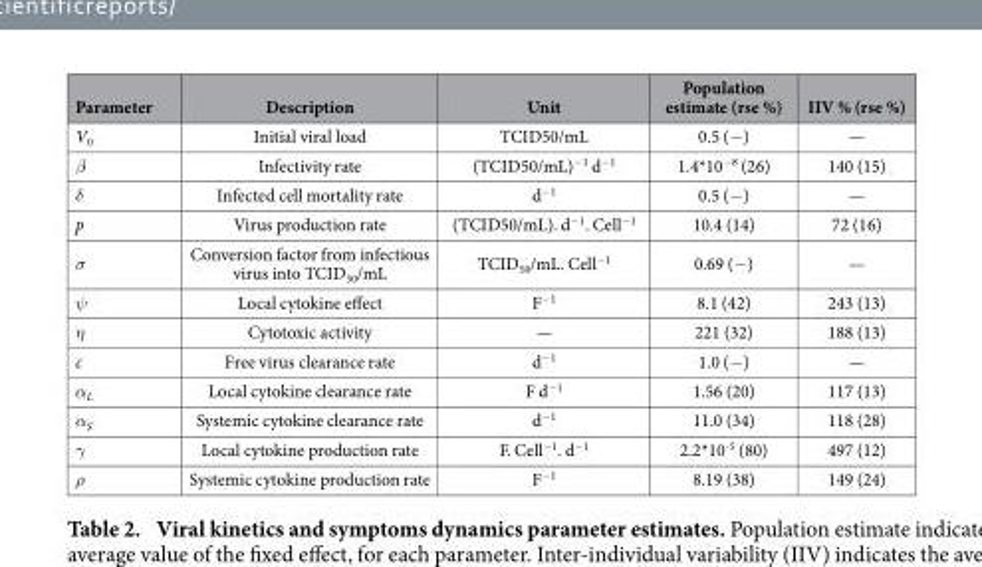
<table><thead><tr><td>Parameter</td><td>Description</td><td>Unit</td><td>Population estimate (rse %)</td><td>IIV % (rse %)</td></tr></thead><tbody><tr><td>V<sub>0</sub></td><td>Initial viral load</td><td>TCID50/mL</td><td>0.5 (− )</td><td>—</td></tr><tr><td>β</td><td>Infectivity rate</td><td>(TCID50/mL)<sup>−1</sup> d<sup>−1</sup></td><td>1.4*10<sup>−8</sup> (26)</td><td>140 (15)</td></tr><tr><td>δ</td><td>Infected cell mortality rate</td><td>d<sup>−1</sup></td><td>0.5 (− )</td><td>—</td></tr><tr><td>p</td><td>Virus production rate</td><td>(TCID50/mL). d<sup>−1</sup>. Cell<sup>−1</sup></td><td>10.4 (14)</td><td>72 (16)</td></tr><tr><td>σ</td><td>Conversion factor from infectious virus into TCID<sub>50</sub>/mL</td><td>TCID<sub>50</sub>/mL. Cell<sup>−1</sup></td><td>0.69 (− )</td><td>—</td></tr><tr><td>ψ</td><td>Local cytokine effect</td><td>F<sup>−1</sup></td><td>8.1 (42)</td><td>243 (13)</td></tr><tr><td>η</td><td>Cytotoxic activity</td><td>—</td><td>221 (32)</td><td>188 (13)</td></tr><tr><td>c</td><td>Free virus clearance rate</td><td>d<sup>−1</sup></td><td>1.0 (− )</td><td>—</td></tr><tr><td>α<sub>L</sub></td><td>Local cytokine clearance rate</td><td>F d<sup>−1</sup></td><td>1.56 (20)</td><td>117 (13)</td></tr><tr><td>α<sub>S</sub></td><td>Systemic cytokine clearance rate</td><td>d<sup>−1</sup></td><td>11.0 (34)</td><td>118 (28)</td></tr><tr><td>γ</td><td>Local cytokine production rate</td><td>F. Cell<sup>−1</sup>. d<sup>−1</sup></td><td>2.2*10<sup>-5</sup> (80)</td><td>497 (12)</td></tr><tr><td>ρ</td><td>Systemic cytokine production rate</td><td>F<sup>−1</sup></td><td>8.19 (38)</td><td>149 (24)</td></tr></tbody></table>